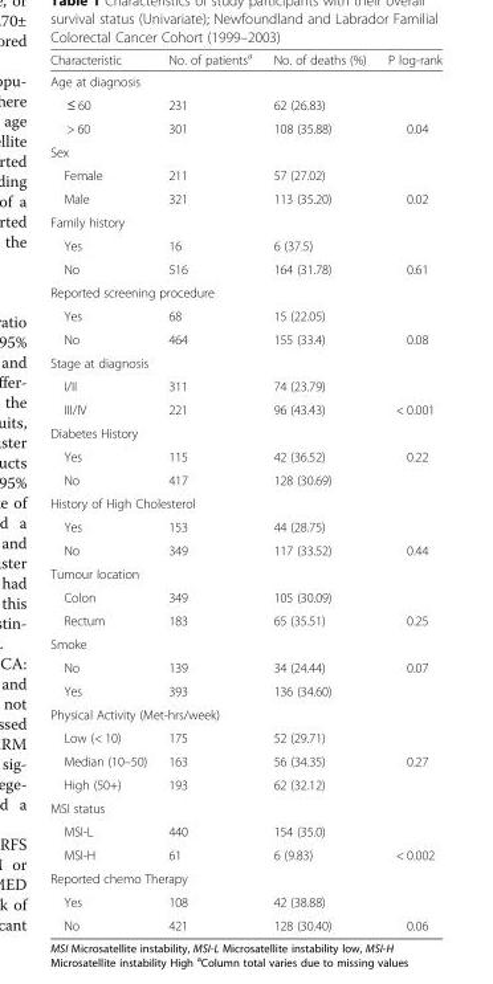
<table><thead><tr><td>Characteristic</td><td>No. of patients<sup>a</sup></td><td>No. of deaths (%)</td><td>P log-rank</td></tr></thead><tbody><tr><td colspan="4">Age at diagnosis</td></tr><tr><td>≤ 60</td><td>231</td><td>62 (26.83)</td><td></td></tr><tr><td>&gt; 60</td><td>301</td><td>108 (35.88)</td><td>0.04</td></tr><tr><td colspan="4">Sex</td></tr><tr><td>Female</td><td>211</td><td>57 (27.02)</td><td></td></tr><tr><td>Male</td><td>321</td><td>113 (35.20)</td><td>0.02</td></tr><tr><td colspan="4">Family history</td></tr><tr><td>Yes</td><td>16</td><td>6 (37.5)</td><td></td></tr><tr><td>No</td><td>516</td><td>164 (31.78)</td><td>0.61</td></tr><tr><td colspan="4">Reported screening procedure</td></tr><tr><td>Yes</td><td>68</td><td>15 (22.05)</td><td></td></tr><tr><td>No</td><td>464</td><td>155 (33.4)</td><td>0.08</td></tr><tr><td colspan="4">Stage at diagnosis</td></tr><tr><td>I/II</td><td>311</td><td>74 (23.79)</td><td></td></tr><tr><td>III/IV</td><td>221</td><td>96 (43.43)</td><td>&lt; 0.001</td></tr><tr><td colspan="4">Diabetes History</td></tr><tr><td>Yes</td><td>115</td><td>42 (36.52)</td><td rowspan="2">0.22</td></tr><tr><td>No</td><td>417</td><td>128 (30.69)</td></tr><tr><td colspan="4">History of High Cholesterol</td></tr><tr><td>Yes</td><td>153</td><td>44 (28.75)</td><td></td></tr><tr><td>No</td><td>349</td><td>117 (33.52)</td><td>0.44</td></tr><tr><td colspan="4">Tumour location</td></tr><tr><td>Colon</td><td>349</td><td>105 (30.09)</td><td></td></tr><tr><td>Rectum</td><td>183</td><td>65 (35.51)</td><td>0.25</td></tr><tr><td colspan="4">Smoke</td></tr><tr><td>No</td><td>139</td><td>34 (24.44)</td><td rowspan="2">0.07</td></tr><tr><td>Yes</td><td>393</td><td>136 (34.60)</td></tr><tr><td colspan="4">Physical Activity (Met-hrs/week)</td></tr><tr><td>Low (&lt; 10)</td><td>175</td><td>52 (29.71)</td><td></td></tr><tr><td>Median (10–50)</td><td>163</td><td>56 (34.35)</td><td>0.27</td></tr><tr><td>High (50+)</td><td>193</td><td>62 (32.12)</td><td></td></tr><tr><td colspan="4">MSI status</td></tr><tr><td>MSI-L</td><td>440</td><td>154 (35.0)</td><td></td></tr><tr><td>MSI-H</td><td>61</td><td>6 (9.83)</td><td>&lt; 0.002</td></tr><tr><td colspan="4">Reported chemo Therapy</td></tr><tr><td>Yes</td><td>108</td><td>42 (38.88)</td><td></td></tr><tr><td>No</td><td>421</td><td>128 (30.40)</td><td>0.06</td></tr></tbody></table>